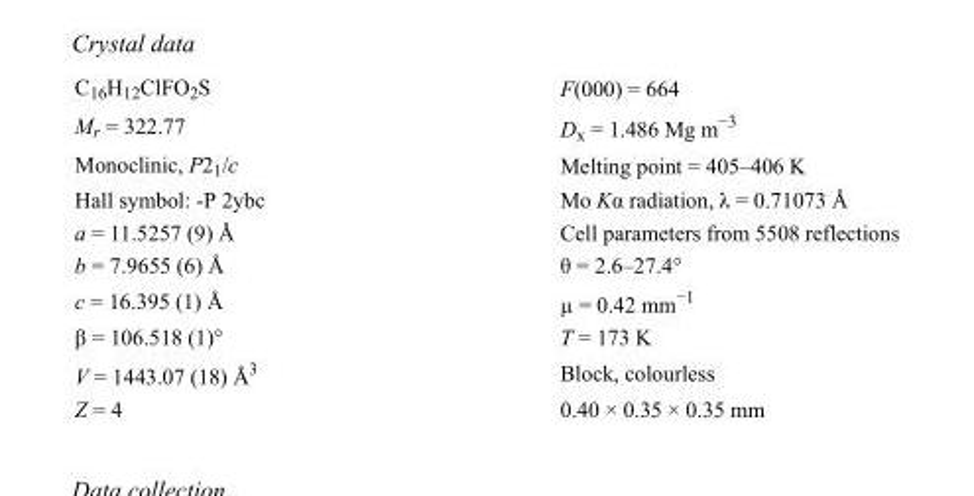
<table><tbody><tr><td>C<sub>16</sub>H<sub>12</sub>ClFO<sub>2</sub>S</td><td>F(000) = 664</td></tr><tr><td>M<sub>r</sub> = 322.77</td><td>D<sub>x</sub> = 1.486 Mg m<sup>−3</sup></td></tr><tr><td>Monoclinic, P2<sub>1</sub>/c</td><td>Melting point = 405–406 K</td></tr><tr><td>Hall symbol: -P 2ybc</td><td>Mo Kα radiation, λ = 0.71073 Å</td></tr><tr><td>a = 11.5257 (9) Å</td><td>Cell parameters from 5508 reflections</td></tr><tr><td>b = 7.9655 (6) Å</td><td>θ = 2.6–27.4°</td></tr><tr><td>c = 16.395 (1) Å</td><td>µ = 0.42 mm<sup>−1</sup></td></tr><tr><td>β = 106.518 (1)°</td><td>T = 173 K</td></tr><tr><td>V = 1443.07 (18) Å<sup>3</sup></td><td>Block, colourless</td></tr><tr><td>Z = 4</td><td>0.40 × 0.35 × 0.35 mm</td></tr></tbody></table>